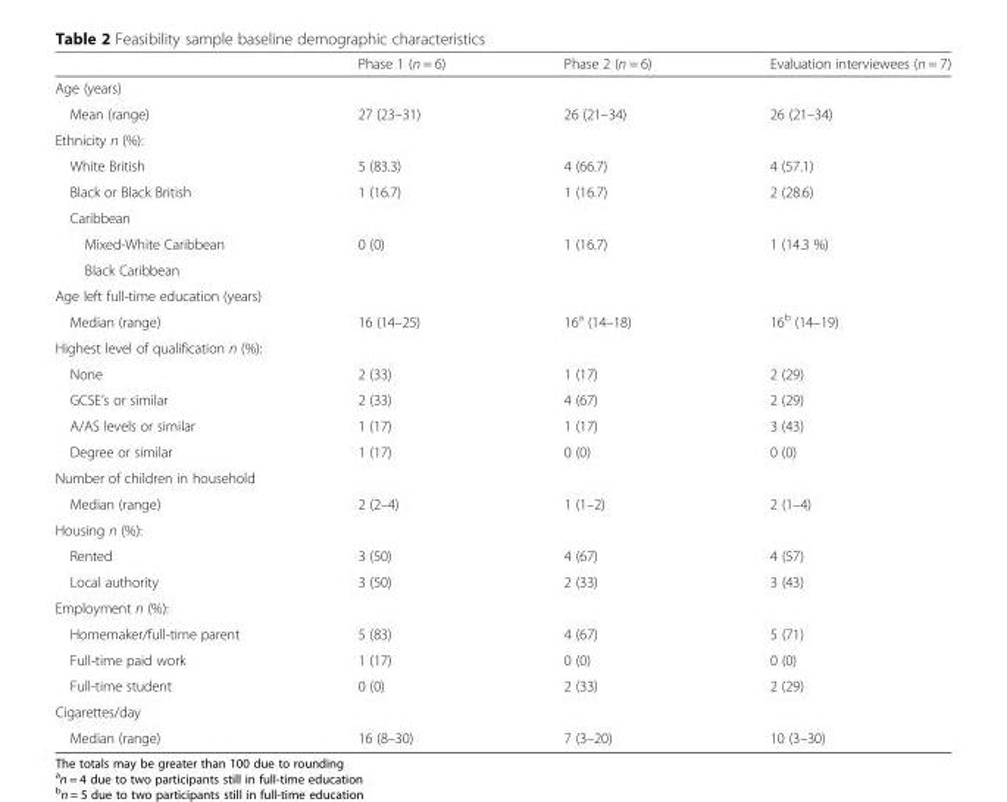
<table><thead><tr><td></td><td>Phase 1 (n = 6)</td><td>Phase 2 (n = 6)</td><td>Evaluation interviewees (n = 7)</td></tr></thead><tbody><tr><td colspan="4">Age (years)</td></tr><tr><td>Mean (range)</td><td>27 (23–31)</td><td>26 (21–34)</td><td>26 (21–34)</td></tr><tr><td colspan="4">Ethnicity n (%):</td></tr><tr><td>White British</td><td>5 (83.3)</td><td>4 (66.7)</td><td>4 (57.1)</td></tr><tr><td>Black or Black British</td><td>1 (16.7)</td><td>1 (16.7)</td><td>2 (28.6)</td></tr><tr><td colspan="4">Caribbean</td></tr><tr><td>Mixed-White Caribbean</td><td>0 (0)</td><td>1 (16.7)</td><td>1 (14.3 %)</td></tr><tr><td colspan="4">Black Caribbean</td></tr><tr><td colspan="4">Age left full-time education (years)</td></tr><tr><td>Median (range)</td><td>16 (14–25)</td><td>16<sup>a</sup> (14–18)</td><td>16<sup>b</sup> (14–19)</td></tr><tr><td colspan="4">Highest level of qualification n (%):</td></tr><tr><td>None</td><td>2 (33)</td><td>1 (17)</td><td>2 (29)</td></tr><tr><td>GCSE’s or similar</td><td>2 (33)</td><td>4 (67)</td><td>2 (29)</td></tr><tr><td>A/AS levels or similar</td><td>1 (17)</td><td>1 (17)</td><td>3 (43)</td></tr><tr><td>Degree or similar</td><td>1 (17)</td><td>0 (0)</td><td>0 (0)</td></tr><tr><td colspan="4">Number of children in household</td></tr><tr><td>Median (range)</td><td>2 (2–4)</td><td>1 (1–2)</td><td>2 (1–4)</td></tr><tr><td colspan="4">Housing n (%):</td></tr><tr><td>Rented</td><td>3 (50)</td><td>4 (67)</td><td>4 (57)</td></tr><tr><td>Local authority</td><td>3 (50)</td><td>2 (33)</td><td>3 (43)</td></tr><tr><td colspan="4">Employment n (%):</td></tr><tr><td>Homemaker/full-time parent</td><td>5 (83)</td><td>4 (67)</td><td>5 (71)</td></tr><tr><td>Full-time paid work</td><td>1 (17)</td><td>0 (0)</td><td>0 (0)</td></tr><tr><td>Full-time student</td><td>0 (0)</td><td>2 (33)</td><td>2 (29)</td></tr><tr><td colspan="4">Cigarettes/day</td></tr><tr><td>Median (range)</td><td>16 (8–30)</td><td>7 (3–20)</td><td>10 (3–30)</td></tr></tbody></table>